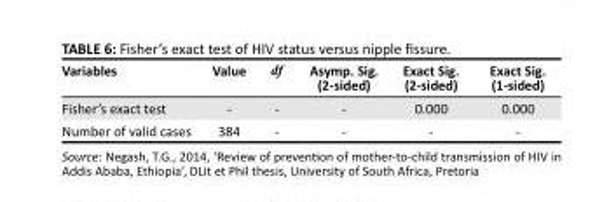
<table><thead><tr><td>Variables</td><td>Value</td><td>df</td><td>Asymp. Sig. (2-sided)</td><td>Exact Sig. (2-sided)</td><td>Exact Sig. (1-sided)</td></tr></thead><tbody><tr><td>Fisher’s exact test</td><td>-</td><td>-</td><td>-</td><td>0.000</td><td>0.000</td></tr><tr><td>Number of valid cases</td><td>384</td><td>-</td><td>-</td><td>-</td><td>-</td></tr></tbody></table>